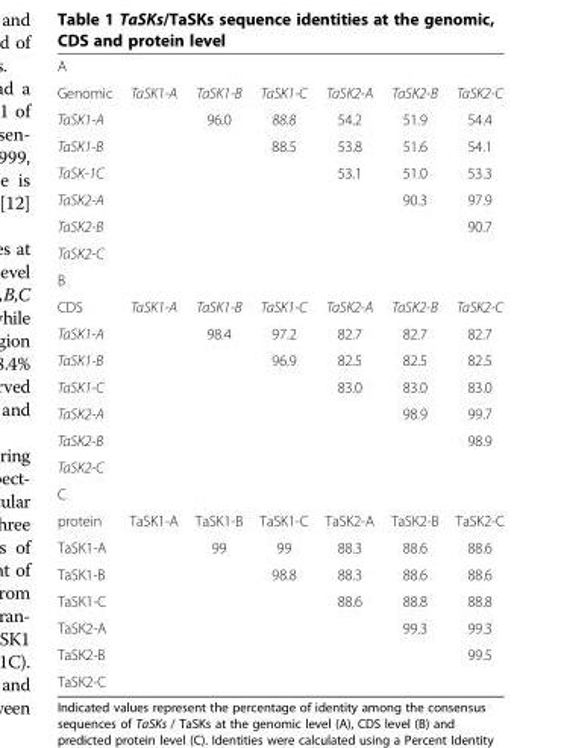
<table><tbody><tr><td colspan="7">A</td></tr><tr><td>Genomic</td><td>TaSK1-A</td><td>TaSK1-B</td><td>TaSK1-C</td><td>TaSK2-A</td><td>TaSK2-B</td><td>TaSK2-C</td></tr><tr><td>TaSK1-A</td><td></td><td>96.0</td><td>88.8</td><td>54.2</td><td>51.9</td><td>54.4</td></tr><tr><td>TaSK1-B</td><td></td><td></td><td>88.5</td><td>53.8</td><td>51.6</td><td>54.1</td></tr><tr><td>TaSK-1C</td><td></td><td></td><td></td><td>53.1</td><td>51.0</td><td>53.3</td></tr><tr><td>TaSK2-A</td><td></td><td></td><td></td><td></td><td>90.3</td><td>97.9</td></tr><tr><td>TaSK2-B</td><td></td><td></td><td></td><td></td><td></td><td>90.7</td></tr><tr><td colspan="7">TaSK2-C</td></tr><tr><td colspan="7">B</td></tr><tr><td>CDS</td><td>TaSK1-A</td><td>TaSK1-B</td><td>TaSK1-C</td><td>TaSK2-A</td><td>TaSK2-B</td><td>TaSK2-C</td></tr><tr><td>TaSK1-A</td><td></td><td>98.4</td><td>97.2</td><td>82.7</td><td>82.7</td><td>82.7</td></tr><tr><td>TaSK1-B</td><td></td><td></td><td>96.9</td><td>82.5</td><td>82.5</td><td>82.5</td></tr><tr><td>TaSK1-C</td><td></td><td></td><td></td><td>83.0</td><td>83.0</td><td>83.0</td></tr><tr><td>TaSK2-A</td><td></td><td></td><td></td><td></td><td>98.9</td><td>99.7</td></tr><tr><td>TaSK2-B</td><td></td><td></td><td></td><td></td><td></td><td>98.9</td></tr><tr><td colspan="7">TaSK2-C</td></tr><tr><td colspan="7">C</td></tr><tr><td>protein</td><td>TaSK1-A</td><td>TaSK1-B</td><td>TaSK1-C</td><td>TaSK2-A</td><td>TaSK2-B</td><td>TaSK2-C</td></tr><tr><td>TaSK1-A</td><td></td><td>99</td><td>99</td><td>88.3</td><td>88.6</td><td>88.6</td></tr><tr><td>TaSK1-B</td><td></td><td></td><td>98.8</td><td>88.3</td><td>88.6</td><td>88.6</td></tr><tr><td>TaSK1-C</td><td></td><td></td><td></td><td>88.6</td><td>88.8</td><td>88.8</td></tr><tr><td>TaSK2-A</td><td></td><td></td><td></td><td></td><td>99.3</td><td>99.3</td></tr><tr><td>TaSK2-B</td><td></td><td></td><td></td><td></td><td></td><td>99.5</td></tr><tr><td>TaSK2-C</td><td></td><td></td><td></td><td></td><td></td><td></td></tr></tbody></table>